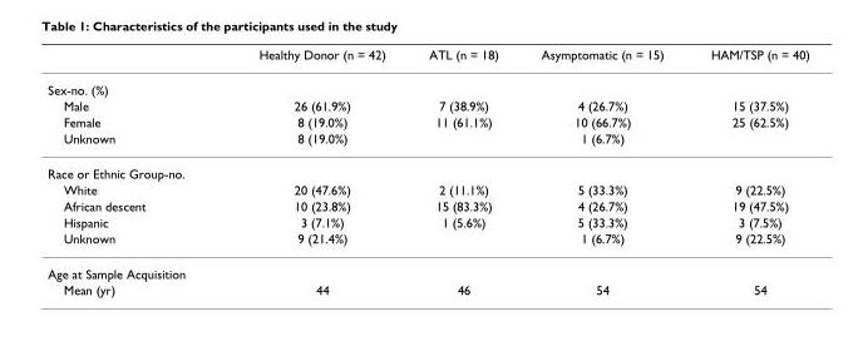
<table><thead><tr><td></td><td>Healthy Donor (n = 42)</td><td>ATL (n = 18)</td><td>Asymptomatic (n = 15)</td><td>HAM/TSP (n = 40)</td></tr></thead><tbody><tr><td colspan="5">Sex-no. (%)</td></tr><tr><td>Male</td><td>26 (61.9%)</td><td>7 (38.9%)</td><td>4 (26.7%)</td><td>15 (37.5%)</td></tr><tr><td>Female</td><td>8 (19.0%)</td><td>11 (61.1%)</td><td>10 (66.7%)</td><td>25 (62.5%)</td></tr><tr><td>Unknown</td><td>8 (19.0%)</td><td></td><td>1 (6.7%)</td><td></td></tr><tr><td colspan="5">Race or Ethnic Group-no.</td></tr><tr><td>White</td><td>20 (47.6%)</td><td>2 (11.1%)</td><td>5 (33.3%)</td><td>9 (22.5%)</td></tr><tr><td>African descent</td><td>10 (23.8%)</td><td>15 (83.3%)</td><td>4 (26.7%)</td><td>19 (47.5%)</td></tr><tr><td>Hispanic</td><td>3 (7.1%)</td><td>1 (5.6%)</td><td>5 (33.3%)</td><td>3 (7.5%)</td></tr><tr><td>Unknown</td><td>9 (21.4%)</td><td></td><td>1 (6.7%)</td><td>9 (22.5%)</td></tr><tr><td colspan="5">Age at Sample Acquisition</td></tr><tr><td>Mean (yr)</td><td>44</td><td>46</td><td>54</td><td>54</td></tr></tbody></table>